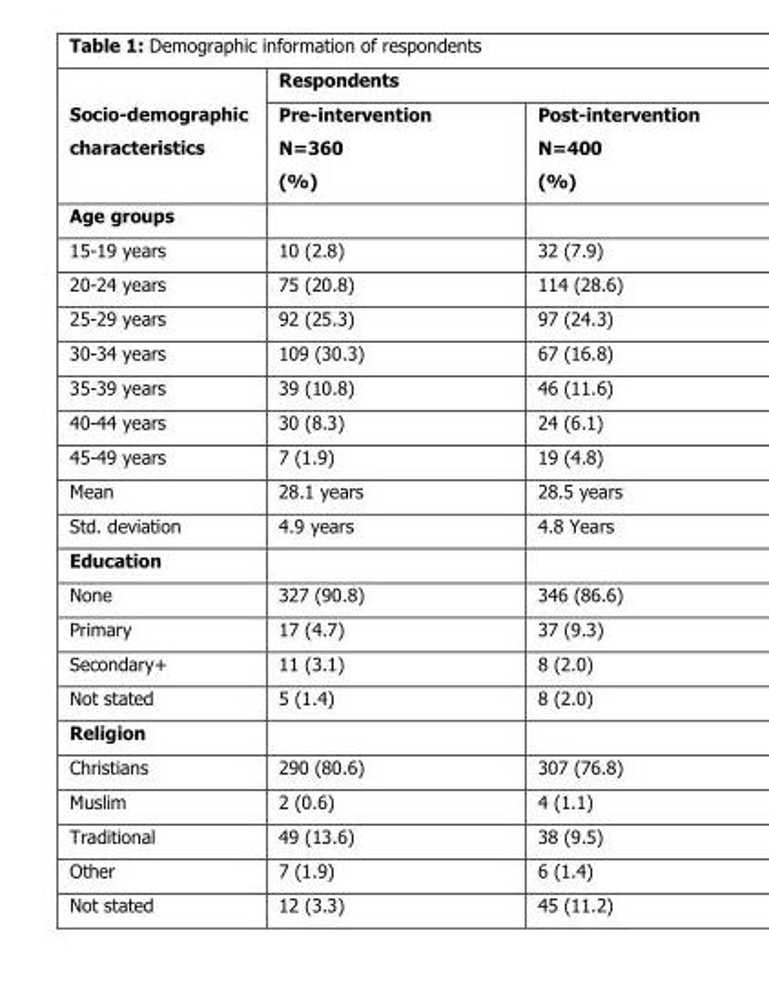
<table><thead><tr><td rowspan="2">Socio-demographic characteristics</td><td colspan="2">Respondents</td></tr><tr><td>Pre-intervention N=360 (%)</td><td>Post-intervention N=400 (%)</td></tr></thead><tbody><tr><td colspan="3">Age groups</td></tr><tr><td>15-19 years</td><td>10 (2.8)</td><td>32 (7.9)</td></tr><tr><td>20-24 years</td><td>75 (20.8)</td><td>114 (28.6)</td></tr><tr><td>25-29 years</td><td>92 (25.3)</td><td>97 (24.3)</td></tr><tr><td>30-34 years</td><td>109 (30.3)</td><td>67 (16.8)</td></tr><tr><td>35-39 years</td><td>39 (10.8)</td><td>46 (11.6)</td></tr><tr><td>40-44 years</td><td>30 (8.3)</td><td>24 (6.1)</td></tr><tr><td>45-49 years</td><td>7 (1.9)</td><td>19 (4.8)</td></tr><tr><td>Mean</td><td>28.1 years</td><td>28.5 years</td></tr><tr><td>Std. deviation</td><td>4.9 years</td><td>4.8 Years</td></tr><tr><td colspan="3">Education</td></tr><tr><td>None</td><td>327 (90.8)</td><td>346 (86.6)</td></tr><tr><td>Primary</td><td>17 (4.7)</td><td>37 (9.3)</td></tr><tr><td>Secondary+</td><td>11 (3.1)</td><td>8 (2.0)</td></tr><tr><td>Not stated</td><td>5 (1.4)</td><td>8 (2.0)</td></tr><tr><td colspan="3">Religion</td></tr><tr><td>Christians</td><td>290 (80.6)</td><td>307 (76.8)</td></tr><tr><td>Muslim</td><td>2 (0.6)</td><td>4 (1.1)</td></tr><tr><td>Traditional</td><td>49 (13.6)</td><td>38 (9.5)</td></tr><tr><td>Other</td><td>7 (1.9)</td><td>6 (1.4)</td></tr><tr><td>Not stated</td><td>12 (3.3)</td><td>45 (11.2)</td></tr></tbody></table>